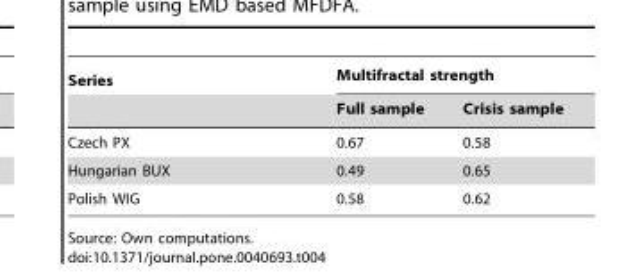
<table><thead><tr><td rowspan="2">Series</td><td colspan="2">Multifractal strength</td></tr><tr><td>Full sample</td><td>Crisis sample</td></tr></thead><tbody><tr><td>Czech PX</td><td>0.67</td><td>0.58</td></tr><tr><td>Hungarian BUX</td><td>0.49</td><td>0.65</td></tr><tr><td>Polish WIG</td><td>0.58</td><td>0.62</td></tr></tbody></table>